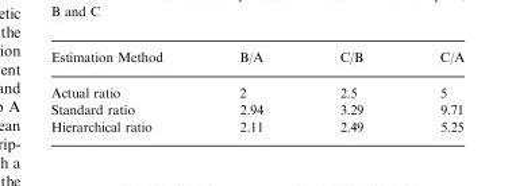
<table><thead><tr><td>Estimation Method</td><td>B/A</td><td>C/B</td><td>C/A</td></tr></thead><tbody><tr><td>Actual ratio</td><td>2</td><td>2.5</td><td>5</td></tr><tr><td>Standard ratio</td><td>2.94</td><td>3.29</td><td>9.71</td></tr><tr><td>Hierarchical ratio</td><td>2.11</td><td>2.49</td><td>5.25</td></tr></tbody></table>